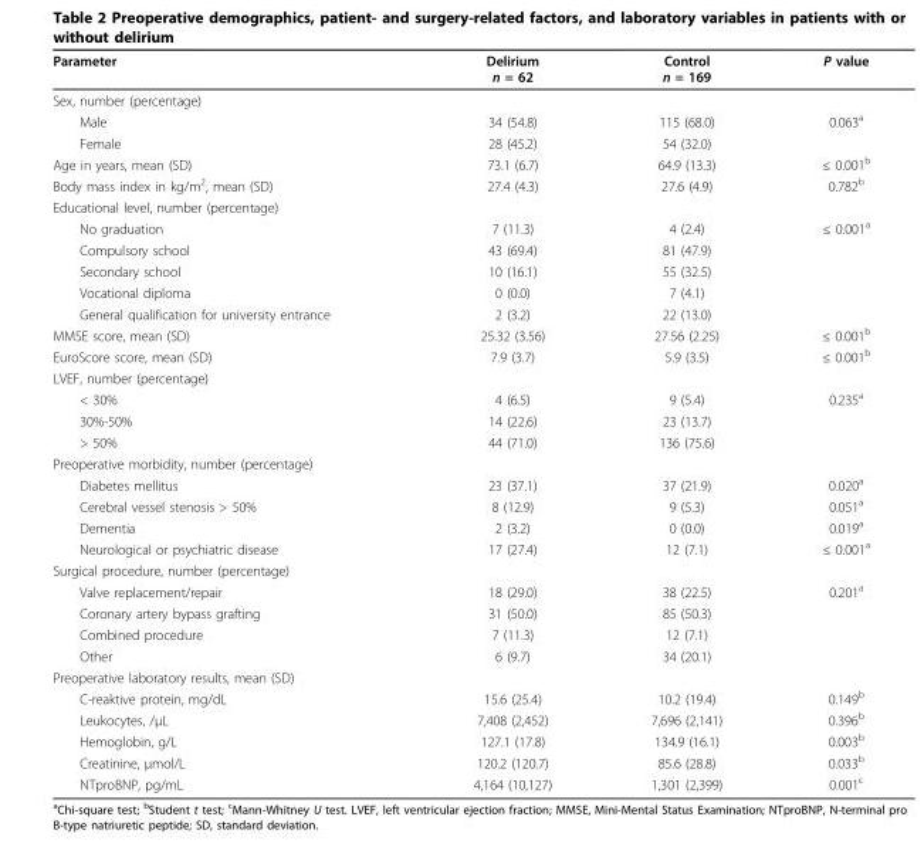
<table><thead><tr><td>Parameter</td><td>Delirium n = 62</td><td>Control n = 169</td><td>P value</td></tr></thead><tbody><tr><td colspan="4">Sex, number (percentage)</td></tr><tr><td>Male</td><td>34 (54.8)</td><td>115 (68.0)</td><td>0.063<sup>a</sup></td></tr><tr><td>Female</td><td>28 (45.2)</td><td>54 (32.0)</td><td></td></tr><tr><td>Age in years, mean (SD)</td><td>73.1 (6.7)</td><td>64.9 (13.3)</td><td>≤ 0.001<sup>b</sup></td></tr><tr><td>Body mass index in kg/m<sup>2</sup>, mean (SD)</td><td>27.4 (4.3)</td><td>27.6 (4.9)</td><td>0.782<sup>b</sup></td></tr><tr><td colspan="4">Educational level, number (percentage)</td></tr><tr><td>No graduation</td><td>7 (11.3)</td><td>4 (2.4)</td><td>≤ 0.001<sup>a</sup></td></tr><tr><td>Compulsory school</td><td>43 (69.4)</td><td>81 (47.9)</td><td></td></tr><tr><td>Secondary school</td><td>10 (16.1)</td><td>55 (32.5)</td><td></td></tr><tr><td>Vocational diploma</td><td>0 (0.0)</td><td>7 (4.1)</td><td></td></tr><tr><td>General qualification for university entrance</td><td>2 (3.2)</td><td>22 (13.0)</td><td></td></tr><tr><td>MMSE score, mean (SD)</td><td>25.32 (3.56)</td><td>27.56 (2.25)</td><td>≤ 0.001<sup>b</sup></td></tr><tr><td>EuroScore score, mean (SD)</td><td>7.9 (3.7)</td><td>5.9 (3.5)</td><td>≤ 0.001<sup>b</sup></td></tr><tr><td colspan="4">LVEF, number (percentage)</td></tr><tr><td>&lt; 30%</td><td>4 (6.5)</td><td>9 (5.4)</td><td>0.235<sup>a</sup></td></tr><tr><td>30%-50%</td><td>14 (22.6)</td><td>23 (13.7)</td><td></td></tr><tr><td>&gt; 50%</td><td>44 (71.0)</td><td>136 (75.6)</td><td></td></tr><tr><td colspan="4">Preoperative morbidity, number (percentage)</td></tr><tr><td>Diabetes mellitus</td><td>23 (37.1)</td><td>37 (21.9)</td><td>0.020<sup>a</sup></td></tr><tr><td>Cerebral vessel stenosis &gt; 50%</td><td>8 (12.9)</td><td>9 (5.3)</td><td>0.051<sup>a</sup></td></tr><tr><td>Dementia</td><td>2 (3.2)</td><td>0 (0.0)</td><td>0.019<sup>a</sup></td></tr><tr><td>Neurological or psychiatric disease</td><td>17 (27.4)</td><td>12 (7.1)</td><td>≤ 0.001<sup>a</sup></td></tr><tr><td colspan="4">Surgical procedure, number (percentage)</td></tr><tr><td>Valve replacement/repair</td><td>18 (29.0)</td><td>38 (22.5)</td><td>0.201<sup>a</sup></td></tr><tr><td>Coronary artery bypass grafting</td><td>31 (50.0)</td><td>85 (50.3)</td><td></td></tr><tr><td>Combined procedure</td><td>7 (11.3)</td><td>12 (7.1)</td><td></td></tr><tr><td>Other</td><td>6 (9.7)</td><td>34 (20.1)</td><td></td></tr><tr><td colspan="4">Preoperative laboratory results, mean (SD)</td></tr><tr><td>C-reaktive protein, mg/dL</td><td>15.6 (25.4)</td><td>10.2 (19.4)</td><td>0.149<sup>b</sup></td></tr><tr><td>Leukocytes, /μL</td><td>7,408 (2,452)</td><td>7,696 (2,141)</td><td>0.396<sup>b</sup></td></tr><tr><td>Hemoglobin, g/L</td><td>127.1 (17.8)</td><td>134.9 (16.1)</td><td>0.003<sup>b</sup></td></tr><tr><td>Creatinine, μmol/L</td><td>120.2 (120.7)</td><td>85.6 (28.8)</td><td>0.033<sup>b</sup></td></tr><tr><td>NTproBNP, pg/mL</td><td>4,164 (10,127)</td><td>1,301 (2,399)</td><td>0.001<sup>c</sup></td></tr></tbody></table>